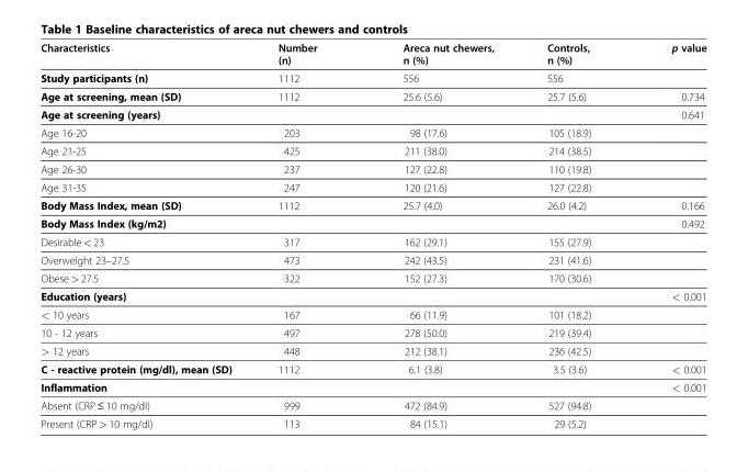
<table><thead><tr><td>Characteristics</td><td>Number (n)</td><td>Areca nut chewers, n (%)</td><td>Controls, n (%)</td><td>p value</td></tr></thead><tbody><tr><td>Study participants (n)</td><td>1112</td><td>556</td><td>556</td><td></td></tr><tr><td>Age at screening, mean (SD)</td><td>1112</td><td>25.6 (5.6)</td><td>25.7 (5.6)</td><td>0.734</td></tr><tr><td>Age at screening (years)</td><td></td><td></td><td></td><td>0.641</td></tr><tr><td>Age 16-20</td><td>203</td><td>98 (17.6)</td><td>105 (18.9)</td><td></td></tr><tr><td>Age 21-25</td><td>425</td><td>211 (38.0)</td><td>214 (38.5)</td><td></td></tr><tr><td>Age 26-30</td><td>237</td><td>127 (22.8)</td><td>110 (19.8)</td><td></td></tr><tr><td>Age 31-35</td><td>247</td><td>120 (21.6)</td><td>127 (22.8)</td><td></td></tr><tr><td>Body Mass Index, mean (SD)</td><td>1112</td><td>25.7 (4.0)</td><td>26.0 (4.2)</td><td>0.166</td></tr><tr><td>Body Mass Index (kg/m2)</td><td></td><td></td><td></td><td>0.492</td></tr><tr><td>Desirable &lt; 23</td><td>317</td><td>162 (29.1)</td><td>155 (27.9)</td><td></td></tr><tr><td>Overweight 23–27.5</td><td>473</td><td>242 (43.5)</td><td>231 (41.6)</td><td></td></tr><tr><td>Obese &gt; 27.5</td><td>322</td><td>152 (27.3)</td><td>170 (30.6)</td><td></td></tr><tr><td>Education (years)</td><td></td><td></td><td></td><td>&lt; 0.001</td></tr><tr><td>&lt; 10 years</td><td>167</td><td>66 (11.9)</td><td>101 (18.2)</td><td></td></tr><tr><td>10 - 12 years</td><td>497</td><td>278 (50.0)</td><td>219 (39.4)</td><td></td></tr><tr><td>&gt; 12 years</td><td>448</td><td>212 (38.1)</td><td>236 (42.5)</td><td></td></tr><tr><td>C - reactive protein (mg/dl), mean (SD)</td><td>1112</td><td>6.1 (3.8)</td><td>3.5 (3.6)</td><td>&lt; 0.001</td></tr><tr><td>Inflammation</td><td></td><td></td><td></td><td>&lt; 0.001</td></tr><tr><td>Absent (CRP ≤ 10 mg/dl)</td><td>999</td><td>472 (84.9)</td><td>527 (94.8)</td><td></td></tr><tr><td>Present (CRP &gt; 10 mg/dl)</td><td>113</td><td>84 (15.1)</td><td>29 (5.2)</td><td></td></tr></tbody></table>